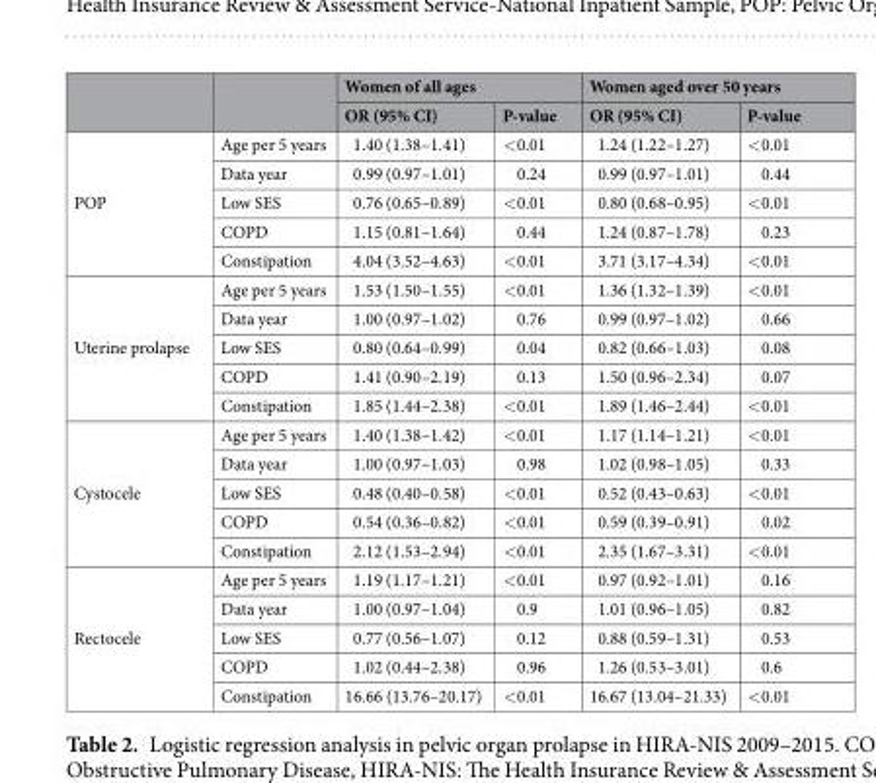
<table><thead><tr><td rowspan="2"></td><td rowspan="2"></td><td colspan="2">Women of all ages</td><td colspan="2">Women aged over 50 years</td></tr><tr><td>OR (95% CI)</td><td>P-value</td><td>OR (95% CI)</td><td>P-value</td></tr></thead><tbody><tr><td rowspan="5">POP</td><td>Age per 5 years</td><td>1.40 (1.38–1.41)</td><td>&lt;0.01</td><td>1.24 (1.22–1.27)</td><td>&lt;0.01</td></tr><tr><td>Data year</td><td>0.99 (0.97–1.01)</td><td>0.24</td><td>0.99 (0.97–1.01)</td><td>0.44</td></tr><tr><td>Low SES</td><td>0.76 (0.65–0.89)</td><td>&lt;0.01</td><td>0.80 (0.68–0.95)</td><td>&lt;0.01</td></tr><tr><td>COPD</td><td>1.15 (0.81–1.64)</td><td>0.44</td><td>1.24 (0.87–1.78)</td><td>0.23</td></tr><tr><td>Constipation</td><td>4.04 (3.52–4.63)</td><td>&lt;0.01</td><td>3.71 (3.17–4.34)</td><td>&lt;0.01</td></tr><tr><td rowspan="5">Uterine prolapse</td><td>Age per 5 years</td><td>1.53 (1.50–1.55)</td><td>&lt;0.01</td><td>1.36 (1.32–1.39)</td><td>&lt;0.01</td></tr><tr><td>Data year</td><td>1.00 (0.97–1.02)</td><td>0.76</td><td>0.99 (0.97–1.02)</td><td>0.66</td></tr><tr><td>Low SES</td><td>0.80 (0.64–0.99)</td><td>0.04</td><td>0.82 (0.66–1.03)</td><td>0.08</td></tr><tr><td>COPD</td><td>1.41 (0.90–2.19)</td><td>0.13</td><td>1.50 (0.96–2.34)</td><td>0.07</td></tr><tr><td>Constipation</td><td>1.85 (1.44–2.38)</td><td>&lt;0.01</td><td>1.89 (1.46–2.44)</td><td>&lt;0.01</td></tr><tr><td rowspan="5">Cystocele</td><td>Age per 5 years</td><td>1.40 (1.38–1.42)</td><td>&lt;0.01</td><td>1.17 (1.14–1.21)</td><td>&lt;0.01</td></tr><tr><td>Data year</td><td>1.00 (0.97–1.03)</td><td>0.98</td><td>1.02 (0.98–1.05)</td><td>0.33</td></tr><tr><td>Low SES</td><td>0.48 (0.40–0.58)</td><td>&lt;0.01</td><td>0.52 (0.43–0.63)</td><td>&lt;0.01</td></tr><tr><td>COPD</td><td>0.54 (0.36–0.82)</td><td>&lt;0.01</td><td>0.59 (0.39–0.91)</td><td>0.02</td></tr><tr><td>Constipation</td><td>2.12 (1.53–2.94)</td><td>&lt;0.01</td><td>2.35 (1.67–3.31)</td><td>&lt;0.01</td></tr><tr><td rowspan="5">Rectocele</td><td>Age per 5 years</td><td>1.19 (1.17–1.21)</td><td>&lt;0.01</td><td>0.97 (0.92–1.01)</td><td>0.16</td></tr><tr><td>Data year</td><td>1.00 (0.97–1.04)</td><td>0.9</td><td>1.01 (0.96–1.05)</td><td>0.82</td></tr><tr><td>Low SES</td><td>0.77 (0.56–1.07)</td><td>0.12</td><td>0.88 (0.59–1.31)</td><td>0.53</td></tr><tr><td>COPD</td><td>1.02 (0.44–2.38)</td><td>0.96</td><td>1.26 (0.53–3.01)</td><td>0.6</td></tr><tr><td>Constipation</td><td>16.66 (13.76–20.17)</td><td>&lt;0.01</td><td>16.67 (13.04–21.33)</td><td>&lt;0.01</td></tr></tbody></table>